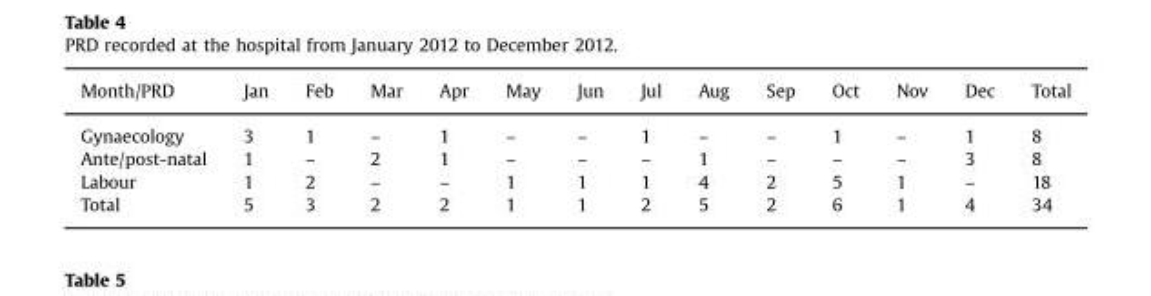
<table><thead><tr><td>Month/PRD</td><td>Jan</td><td>Feb</td><td>Mar</td><td>Apr</td><td>May</td><td>Jun</td><td>Jul</td><td>Aug</td><td>Sep</td><td>Oct</td><td>Nov</td><td>Dec</td><td>Total</td></tr></thead><tbody><tr><td>Gynaecology</td><td>3</td><td>1</td><td>–</td><td>1</td><td>–</td><td>–</td><td>1</td><td>–</td><td>–</td><td>1</td><td>–</td><td>1</td><td>8</td></tr><tr><td>Ante/post-natal</td><td>1</td><td>–</td><td>2</td><td>1</td><td>–</td><td>–</td><td>–</td><td>1</td><td>–</td><td>–</td><td>–</td><td>3</td><td>8</td></tr><tr><td>Labour</td><td>1</td><td>2</td><td>–</td><td>–</td><td>1</td><td>1</td><td>1</td><td>4</td><td>2</td><td>5</td><td>1</td><td>–</td><td>18</td></tr><tr><td>Total</td><td>5</td><td>3</td><td>2</td><td>2</td><td>1</td><td>1</td><td>2</td><td>5</td><td>2</td><td>6</td><td>1</td><td>4</td><td>34</td></tr></tbody></table>